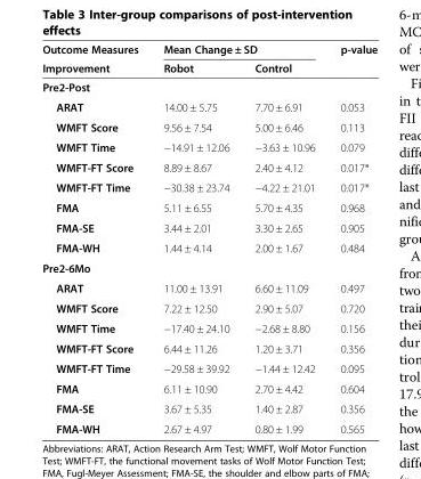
<table><thead><tr><td rowspan="2">Outcome Measures Improvement</td><td colspan="2">Mean Change ± SD</td><td rowspan="2">p-value</td></tr><tr><td>Robot</td><td>Control</td></tr></thead><tbody><tr><td colspan="4">Pre2-Post</td></tr><tr><td>ARAT</td><td>14.00 ± 5.75</td><td>7.70 ± 6.91</td><td>0.053</td></tr><tr><td>WMFT Score</td><td>9.56 ± 7.54</td><td>5.00 ± 6.46</td><td>0.113</td></tr><tr><td>WMFT Time</td><td>−14.91 ± 12.06</td><td>−3.63 ± 10.96</td><td>0.079</td></tr><tr><td>WMFT-FT Score</td><td>8.89 ± 8.67</td><td>2.40 ± 4.12</td><td>0.017*</td></tr><tr><td>WMFT-FT Time</td><td>−30.38 ± 23.74</td><td>−4.22 ± 21.01</td><td>0.017*</td></tr><tr><td>FMA</td><td>5.11 ± 6.55</td><td>5.70 ± 4.35</td><td>0.968</td></tr><tr><td>FMA-SE</td><td>3.44 ± 2.01</td><td>3.30 ± 2.65</td><td>0.905</td></tr><tr><td>FMA-WH</td><td>1.44 ± 4.14</td><td>2.00 ± 1.67</td><td>0.484</td></tr><tr><td colspan="4">Pre2-6Mo</td></tr><tr><td>ARAT</td><td>11.00 ± 13.91</td><td>6.60 ± 11.09</td><td>0.497</td></tr><tr><td>WMFT Score</td><td>7.22 ± 12.50</td><td>2.90 ± 5.07</td><td>0.720</td></tr><tr><td>WMFT Time</td><td>−17.40 ± 24.10</td><td>−2.68 ± 8.80</td><td>0.156</td></tr><tr><td>WMFT-FT Score</td><td>6.44 ± 11.26</td><td>1.20 ± 3.71</td><td>0.356</td></tr><tr><td>WMFT-FT Time</td><td>−29.58 ± 39.92</td><td>−1.44 ± 12.42</td><td>0.095</td></tr><tr><td>FMA</td><td>6.11 ± 10.90</td><td>2.70 ± 4.42</td><td>0.604</td></tr><tr><td>FMA-SE</td><td>3.67 ± 5.35</td><td>1.40 ± 2.87</td><td>0.356</td></tr><tr><td>FMA-WH</td><td>2.67 ± 4.97</td><td>0.80 ± 1.99</td><td>0.565</td></tr></tbody></table>